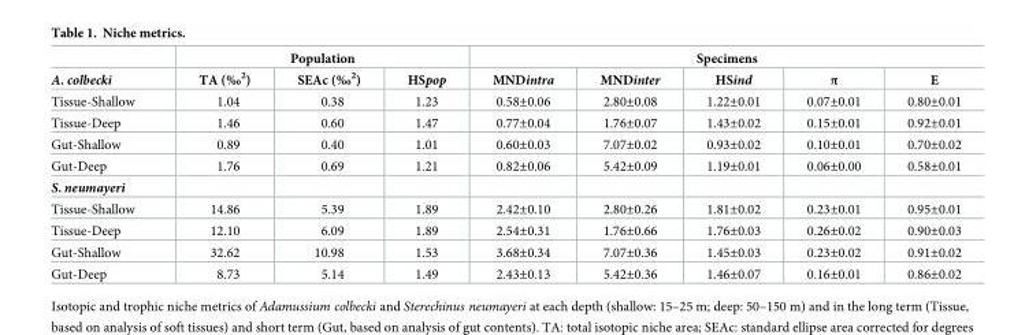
<table><thead><tr><td rowspan="2">A. colbecki</td><td colspan="3">Population</td><td colspan="5">Specimens</td></tr><tr><td>TA (‰<sup>2</sup>)</td><td>SEAc (‰<sup>2</sup>)</td><td>HSpop</td><td>MNDintra</td><td>MNDinter</td><td>HSind</td><td>π</td><td>E</td></tr></thead><tbody><tr><td>Tissue-Shallow</td><td>1.04</td><td>0.38</td><td>1.23</td><td>0.58±0.06</td><td>2.80±0.08</td><td>1.22±0.01</td><td>0.07±0.01</td><td>0.80±0.01</td></tr><tr><td>Tissue-Deep</td><td>1.46</td><td>0.60</td><td>1.47</td><td>0.77±0.04</td><td>1.76±0.07</td><td>1.43±0.02</td><td>0.15±0.01</td><td>0.92±0.01</td></tr><tr><td>Gut-Shallow</td><td>0.89</td><td>0.40</td><td>1.01</td><td>0.60±0.03</td><td>7.07±0.02</td><td>0.93±0.02</td><td>0.10±0.01</td><td>0.70±0.02</td></tr><tr><td>Gut-Deep</td><td>1.76</td><td>0.69</td><td>1.21</td><td>0.82±0.06</td><td>5.42±0.09</td><td>1.19±0.01</td><td>0.06±0.00</td><td>0.58±0.01</td></tr><tr><td colspan="9">S. neumayeri</td></tr><tr><td>Tissue-Shallow</td><td>14.86</td><td>5.39</td><td>1.89</td><td>2.42±0.10</td><td>2.80±0.26</td><td>1.81±0.02</td><td>0.23±0.01</td><td>0.95±0.01</td></tr><tr><td>Tissue-Deep</td><td>12.10</td><td>6.09</td><td>1.89</td><td>2.54±0.31</td><td>1.76±0.66</td><td>1.76±0.03</td><td>0.26±0.02</td><td>0.90±0.03</td></tr><tr><td>Gut-Shallow</td><td>32.62</td><td>10.98</td><td>1.53</td><td>3.68±0.34</td><td>7.07±0.36</td><td>1.45±0.03</td><td>0.23±0.02</td><td>0.91±0.02</td></tr><tr><td>Gut-Deep</td><td>8.73</td><td>5.14</td><td>1.49</td><td>2.43±0.13</td><td>5.42±0.36</td><td>1.46±0.07</td><td>0.16±0.01</td><td>0.86±0.02</td></tr></tbody></table>